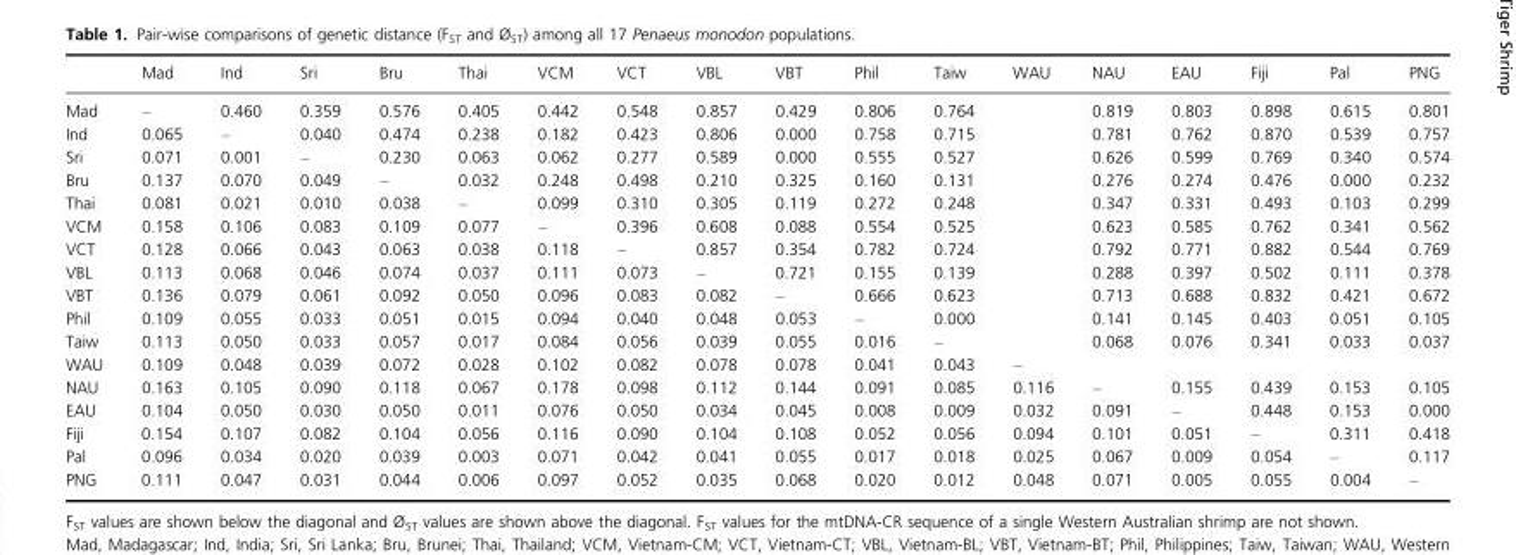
<table><thead><tr><td></td><td>Mad</td><td>Ind</td><td>Sri</td><td>Bru</td><td>Thai</td><td>VCM</td><td>VCT</td><td>VBL</td><td>VBT</td><td>Phil</td><td>Taiw</td><td>WAU</td><td>NAU</td><td>EAU</td><td>Fiji</td><td>Pal</td><td>PNG</td></tr></thead><tbody><tr><td>Mad</td><td>–</td><td>0.460</td><td>0.359</td><td>0.576</td><td>0.405</td><td>0.442</td><td>0.548</td><td>0.857</td><td>0.429</td><td>0.806</td><td>0.764</td><td></td><td>0.819</td><td>0.803</td><td>0.898</td><td>0.615</td><td>0.801</td></tr><tr><td>Ind</td><td>0.065</td><td>–</td><td>0.040</td><td>0.474</td><td>0.238</td><td>0.182</td><td>0.423</td><td>0.806</td><td>0.000</td><td>0.758</td><td>0.715</td><td></td><td>0.781</td><td>0.762</td><td>0.870</td><td>0.539</td><td>0.757</td></tr><tr><td>Sri</td><td>0.071</td><td>0.001</td><td>–</td><td>0.230</td><td>0.063</td><td>0.062</td><td>0.277</td><td>0.589</td><td>0.000</td><td>0.555</td><td>0.527</td><td></td><td>0.626</td><td>0.599</td><td>0.769</td><td>0.340</td><td>0.574</td></tr><tr><td>Bru</td><td>0.137</td><td>0.070</td><td>0.049</td><td>–</td><td>0.032</td><td>0.248</td><td>0.498</td><td>0.210</td><td>0.325</td><td>0.160</td><td>0.131</td><td></td><td>0.276</td><td>0.274</td><td>0.476</td><td>0.000</td><td>0.232</td></tr><tr><td>Thai</td><td>0.081</td><td>0.021</td><td>0.010</td><td>0.038</td><td>–</td><td>0.099</td><td>0.310</td><td>0.305</td><td>0.119</td><td>0.272</td><td>0.248</td><td></td><td>0.347</td><td>0.331</td><td>0.493</td><td>0.103</td><td>0.299</td></tr><tr><td>VCM</td><td>0.158</td><td>0.106</td><td>0.083</td><td>0.109</td><td>0.077</td><td>–</td><td>0.396</td><td>0.608</td><td>0.088</td><td>0.554</td><td>0.525</td><td></td><td>0.623</td><td>0.585</td><td>0.762</td><td>0.341</td><td>0.562</td></tr><tr><td>VCT</td><td>0.128</td><td>0.066</td><td>0.043</td><td>0.063</td><td>0.038</td><td>0.118</td><td>–</td><td>0.857</td><td>0.354</td><td>0.782</td><td>0.724</td><td></td><td>0.792</td><td>0.771</td><td>0.882</td><td>0.544</td><td>0.769</td></tr><tr><td>VBL</td><td>0.113</td><td>0.068</td><td>0.046</td><td>0.074</td><td>0.037</td><td>0.111</td><td>0.073</td><td>–</td><td>0.721</td><td>0.155</td><td>0.139</td><td></td><td>0.288</td><td>0.397</td><td>0.502</td><td>0.111</td><td>0.378</td></tr><tr><td>VBT</td><td>0.136</td><td>0.079</td><td>0.061</td><td>0.092</td><td>0.050</td><td>0.096</td><td>0.083</td><td>0.082</td><td>–</td><td>0.666</td><td>0.623</td><td></td><td>0.713</td><td>0.688</td><td>0.832</td><td>0.421</td><td>0.672</td></tr><tr><td>Phil</td><td>0.109</td><td>0.055</td><td>0.033</td><td>0.051</td><td>0.015</td><td>0.094</td><td>0.040</td><td>0.048</td><td>0.053</td><td>–</td><td>0.000</td><td></td><td>0.141</td><td>0.145</td><td>0.403</td><td>0.051</td><td>0.105</td></tr><tr><td>Taiw</td><td>0.113</td><td>0.050</td><td>0.033</td><td>0.057</td><td>0.017</td><td>0.084</td><td>0.056</td><td>0.039</td><td>0.055</td><td>0.016</td><td>–</td><td></td><td>0.068</td><td>0.076</td><td>0.341</td><td>0.033</td><td>0.037</td></tr><tr><td>WAU</td><td>0.109</td><td>0.048</td><td>0.039</td><td>0.072</td><td>0.028</td><td>0.102</td><td>0.082</td><td>0.078</td><td>0.078</td><td>0.041</td><td>0.043</td><td>–</td><td></td><td></td><td></td><td></td><td></td></tr><tr><td>NAU</td><td>0.163</td><td>0.105</td><td>0.090</td><td>0.118</td><td>0.067</td><td>0.178</td><td>0.098</td><td>0.112</td><td>0.144</td><td>0.091</td><td>0.085</td><td>0.116</td><td>–</td><td>0.155</td><td>0.439</td><td>0.153</td><td>0.105</td></tr><tr><td>EAU</td><td>0.104</td><td>0.050</td><td>0.030</td><td>0.050</td><td>0.011</td><td>0.076</td><td>0.050</td><td>0.034</td><td>0.045</td><td>0.008</td><td>0.009</td><td>0.032</td><td>0.091</td><td>–</td><td>0.448</td><td>0.153</td><td>0.000</td></tr><tr><td>Fiji</td><td>0.154</td><td>0.107</td><td>0.082</td><td>0.104</td><td>0.056</td><td>0.116</td><td>0.090</td><td>0.104</td><td>0.108</td><td>0.052</td><td>0.056</td><td>0.094</td><td>0.101</td><td>0.051</td><td>–</td><td>0.311</td><td>0.418</td></tr><tr><td>Pal</td><td>0.096</td><td>0.034</td><td>0.020</td><td>0.039</td><td>0.003</td><td>0.071</td><td>0.042</td><td>0.041</td><td>0.055</td><td>0.017</td><td>0.018</td><td>0.025</td><td>0.067</td><td>0.009</td><td>0.054</td><td>–</td><td>0.117</td></tr><tr><td>PNG</td><td>0.111</td><td>0.047</td><td>0.031</td><td>0.044</td><td>0.006</td><td>0.097</td><td>0.052</td><td>0.035</td><td>0.068</td><td>0.020</td><td>0.012</td><td>0.048</td><td>0.071</td><td>0.005</td><td>0.055</td><td>0.004</td><td>–</td></tr></tbody></table>